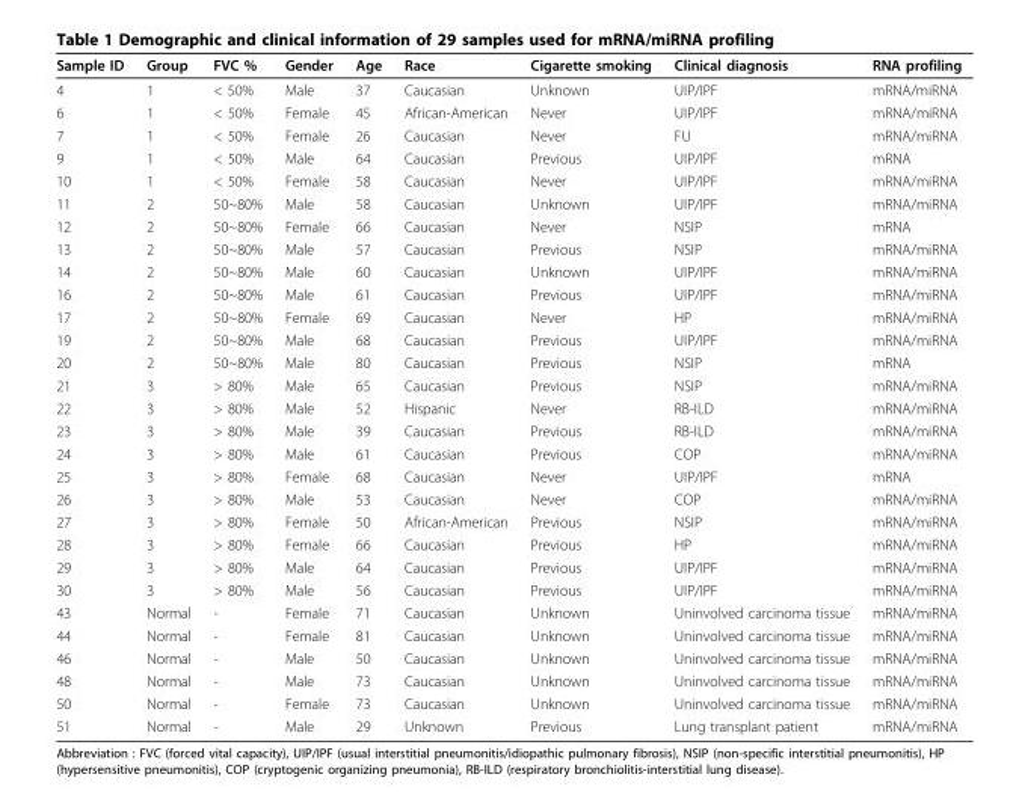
<table><thead><tr><td>Sample ID</td><td>Group</td><td>FVC %</td><td>Gender</td><td>Age</td><td>Race</td><td>Cigarette smoking</td><td>Clinical diagnosis</td><td>RNA profiling</td></tr></thead><tbody><tr><td>4</td><td>1</td><td>&lt; 50%</td><td>Male</td><td>37</td><td>Caucasian</td><td>Unknown</td><td>UIP/IPF</td><td>mRNA/miRNA</td></tr><tr><td>6</td><td>1</td><td>&lt; 50%</td><td>Female</td><td>45</td><td>African-American</td><td>Never</td><td>UIP/IPF</td><td>mRNA/miRNA</td></tr><tr><td>7</td><td>1</td><td>&lt; 50%</td><td>Female</td><td>26</td><td>Caucasian</td><td>Never</td><td>FU</td><td>mRNA/miRNA</td></tr><tr><td>9</td><td>1</td><td>&lt; 50%</td><td>Male</td><td>64</td><td>Caucasian</td><td>Previous</td><td>UIP/IPF</td><td>mRNA</td></tr><tr><td>10</td><td>1</td><td>&lt; 50%</td><td>Female</td><td>58</td><td>Caucasian</td><td>Never</td><td>UIP/IPF</td><td>mRNA/miRNA</td></tr><tr><td>11</td><td>2</td><td>50~80%</td><td>Male</td><td>58</td><td>Caucasian</td><td>Unknown</td><td>UIP/IPF</td><td>mRNA/miRNA</td></tr><tr><td>12</td><td>2</td><td>50~80%</td><td>Female</td><td>66</td><td>Caucasian</td><td>Never</td><td>NSIP</td><td>mRNA</td></tr><tr><td>13</td><td>2</td><td>50~80%</td><td>Male</td><td>57</td><td>Caucasian</td><td>Previous</td><td>NSIP</td><td>mRNA/miRNA</td></tr><tr><td>14</td><td>2</td><td>50~80%</td><td>Male</td><td>60</td><td>Caucasian</td><td>Unknown</td><td>UIP/IPF</td><td>mRNA/miRNA</td></tr><tr><td>16</td><td>2</td><td>50~80%</td><td>Male</td><td>61</td><td>Caucasian</td><td>Previous</td><td>UIP/IPF</td><td>mRNA/miRNA</td></tr><tr><td>17</td><td>2</td><td>50~80%</td><td>Female</td><td>69</td><td>Caucasian</td><td>Never</td><td>HP</td><td>mRNA/miRNA</td></tr><tr><td>19</td><td>2</td><td>50~80%</td><td>Male</td><td>68</td><td>Caucasian</td><td>Previous</td><td>UIP/IPF</td><td>mRNA/miRNA</td></tr><tr><td>20</td><td>2</td><td>50~80%</td><td>Male</td><td>80</td><td>Caucasian</td><td>Previous</td><td>NSIP</td><td>mRNA</td></tr><tr><td>21</td><td>3</td><td>&gt; 80%</td><td>Male</td><td>65</td><td>Caucasian</td><td>Previous</td><td>NSIP</td><td>mRNA/miRNA</td></tr><tr><td>22</td><td>3</td><td>&gt; 80%</td><td>Male</td><td>52</td><td>Hispanic</td><td>Never</td><td>RB-ILD</td><td>mRNA/miRNA</td></tr><tr><td>23</td><td>3</td><td>&gt; 80%</td><td>Male</td><td>39</td><td>Caucasian</td><td>Previous</td><td>RB-ILD</td><td>mRNA/miRNA</td></tr><tr><td>24</td><td>3</td><td>&gt; 80%</td><td>Male</td><td>61</td><td>Caucasian</td><td>Previous</td><td>COP</td><td>mRNA/miRNA</td></tr><tr><td>25</td><td>3</td><td>&gt; 80%</td><td>Female</td><td>68</td><td>Caucasian</td><td>Never</td><td>UIP/IPF</td><td>mRNA</td></tr><tr><td>26</td><td>3</td><td>&gt; 80%</td><td>Male</td><td>53</td><td>Caucasian</td><td>Never</td><td>COP</td><td>mRNA/miRNA</td></tr><tr><td>27</td><td>3</td><td>&gt; 80%</td><td>Female</td><td>50</td><td>African-American</td><td>Previous</td><td>NSIP</td><td>mRNA/miRNA</td></tr><tr><td>28</td><td>3</td><td>&gt; 80%</td><td>Female</td><td>66</td><td>Caucasian</td><td>Previous</td><td>HP</td><td>mRNA/miRNA</td></tr><tr><td>29</td><td>3</td><td>&gt; 80%</td><td>Male</td><td>64</td><td>Caucasian</td><td>Previous</td><td>UIP/IPF</td><td>mRNA/miRNA</td></tr><tr><td>30</td><td>3</td><td>&gt; 80%</td><td>Male</td><td>56</td><td>Caucasian</td><td>Previous</td><td>UIP/IPF</td><td>mRNA/miRNA</td></tr><tr><td>43</td><td>Normal</td><td>-</td><td>Female</td><td>71</td><td>Caucasian</td><td>Unknown</td><td>Uninvolved carcinoma tissue</td><td>mRNA/miRNA</td></tr><tr><td>44</td><td>Normal</td><td>-</td><td>Female</td><td>81</td><td>Caucasian</td><td>Unknown</td><td>Uninvolved carcinoma tissue</td><td>mRNA/miRNA</td></tr><tr><td>46</td><td>Normal</td><td>-</td><td>Male</td><td>50</td><td>Caucasian</td><td>Unknown</td><td>Uninvolved carcinoma tissue</td><td>mRNA/miRNA</td></tr><tr><td>48</td><td>Normal</td><td>-</td><td>Male</td><td>73</td><td>Caucasian</td><td>Unknown</td><td>Uninvolved carcinoma tissue</td><td>mRNA/miRNA</td></tr><tr><td>50</td><td>Normal</td><td>-</td><td>Female</td><td>73</td><td>Caucasian</td><td>Unknown</td><td>Uninvolved carcinoma tissue</td><td>mRNA/miRNA</td></tr><tr><td>51</td><td>Normal</td><td>-</td><td>Male</td><td>29</td><td>Unknown</td><td>Previous</td><td>Lung transplant patient</td><td>mRNA/miRNA</td></tr></tbody></table>